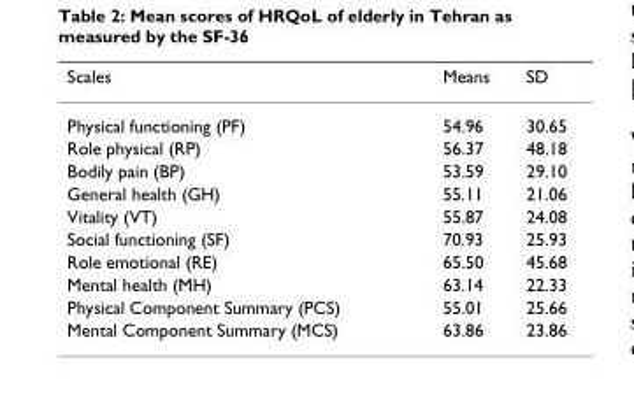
<table><thead><tr><td>Scales</td><td>Means</td><td>SD</td></tr></thead><tbody><tr><td>Physical functioning (PF)</td><td>54.96</td><td>30.65</td></tr><tr><td>Role physical (RP)</td><td>56.37</td><td>48.18</td></tr><tr><td>Bodily pain (BP)</td><td>53.59</td><td>29.10</td></tr><tr><td>General health (GH)</td><td>55.11</td><td>21.06</td></tr><tr><td>Vitality (VT)</td><td>55.87</td><td>24.08</td></tr><tr><td>Social functioning (SF)</td><td>70.93</td><td>25.93</td></tr><tr><td>Role emotional (RE)</td><td>65.50</td><td>45.68</td></tr><tr><td>Mental health (MH)</td><td>63.14</td><td>22.33</td></tr><tr><td>Physical Component Summary (PCS)</td><td>55.01</td><td>25.66</td></tr><tr><td>Mental Component Summary (MCS)</td><td>63.86</td><td>23.86</td></tr></tbody></table>